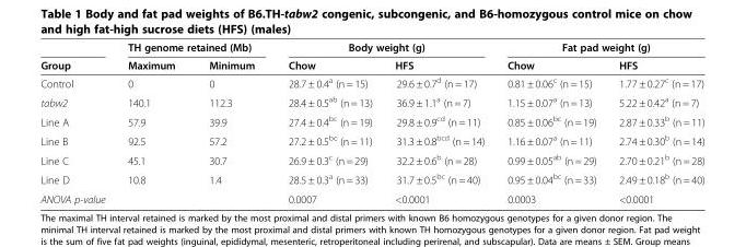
<table><thead><tr><td rowspan="2">Group</td><td colspan="2">TH genome retained (Mb)</td><td colspan="2">Body weight (g)</td><td colspan="2">Fat pad weight (g)</td></tr><tr><td>Maximum</td><td>Minimum</td><td>Chow</td><td>HFS</td><td>Chow</td><td>HFS</td></tr></thead><tbody><tr><td>Control</td><td>0</td><td>0</td><td>28.7 ± 0.4<sup>a</sup> (n = 15)</td><td>29.6 ± 0.7<sup>d</sup> (n = 17)</td><td>0.81 ± 0.06<sup>c</sup> (n = 15)</td><td>1.77 ± 0.27<sup>c</sup> (n = 17)</td></tr><tr><td>tabw2</td><td>140.1</td><td>112.3</td><td>28.4 ± 0.5<sup>ab</sup> (n = 13)</td><td>36.9 ± 1.1<sup>a</sup> (n = 7)</td><td>1.15 ± 0.07<sup>a</sup> (n = 13)</td><td>5.22 ± 0.42<sup>a</sup> (n = 7)</td></tr><tr><td>Line A</td><td>57.9</td><td>39.9</td><td>27.4 ± 0.4<sup>bc</sup> (n = 19)</td><td>29.8 ± 0.9<sup>cd</sup> (n = 11)</td><td>0.85 ± 0.06<sup>bc</sup> (n = 19)</td><td>2.87 ± 0.33<sup>b</sup> (n = 11)</td></tr><tr><td>Line B</td><td>92.5</td><td>57.2</td><td>27.2 ± 0.5<sup>bc</sup> (n = 11)</td><td>31.3 ± 0.8<sup>bcd</sup> (n = 14)</td><td>1.16 ± 0.07<sup>a</sup> (n = 11)</td><td>2.74 ± 0.30<sup>b</sup> (n = 14)</td></tr><tr><td>Line C</td><td>45.1</td><td>30.7</td><td>26.9 ± 0.3<sup>c</sup> (n = 29)</td><td>32.2 ± 0.6<sup>b</sup> (n = 28)</td><td>0.99 ± 0.05<sup>ab</sup> (n = 29)</td><td>2.70 ± 0.21<sup>b</sup> (n = 28)</td></tr><tr><td>Line D</td><td>10.8</td><td>1.4</td><td>28.5 ± 0.3<sup>a</sup> (n = 33)</td><td>31.7 ± 0.5<sup>bc</sup> (n = 40)</td><td>0.95 ± 0.04<sup>bc</sup> (n = 33)</td><td>2.49 ± 0.18<sup>b</sup> (n = 40)</td></tr><tr><td>ANOVA p-value</td><td></td><td></td><td>0.0007</td><td>&lt;0.0001</td><td>0.0003</td><td>&lt;0.0001</td></tr></tbody></table>